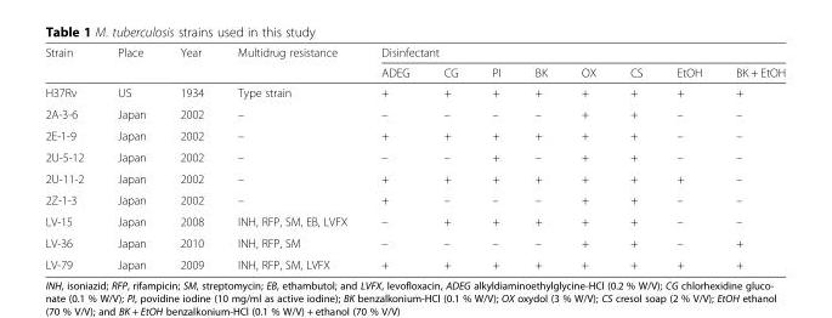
<table><thead><tr><td rowspan="2">Strain</td><td rowspan="2">Place</td><td rowspan="2">Year</td><td rowspan="2">Multidrug resistance</td><td colspan="8">Disinfectant</td></tr><tr><td>ADEG</td><td>CG</td><td>PI</td><td>BK</td><td>OX</td><td>CS</td><td>EtOH</td><td>BK + EtOH</td></tr></thead><tbody><tr><td>H37Rv</td><td>US</td><td>1934</td><td>Type strain</td><td>+</td><td>+</td><td>+</td><td>+</td><td>+</td><td>+</td><td>+</td><td>+</td></tr><tr><td>2A-3-6</td><td>Japan</td><td>2002</td><td>–</td><td>–</td><td>–</td><td>–</td><td>–</td><td>+</td><td>+</td><td>–</td><td>–</td></tr><tr><td>2E-1-9</td><td>Japan</td><td>2002</td><td>–</td><td>+</td><td>+</td><td>+</td><td>+</td><td>+</td><td>+</td><td>–</td><td>–</td></tr><tr><td>2U-5-12</td><td>Japan</td><td>2002</td><td>–</td><td>–</td><td>–</td><td>+</td><td>–</td><td>+</td><td>+</td><td>–</td><td>–</td></tr><tr><td>2U-11-2</td><td>Japan</td><td>2002</td><td>–</td><td>+</td><td>+</td><td>+</td><td>+</td><td>+</td><td>+</td><td>+</td><td>–</td></tr><tr><td>2Z-1-3</td><td>Japan</td><td>2002</td><td>–</td><td>+</td><td>–</td><td>–</td><td>–</td><td>+</td><td>+</td><td>–</td><td>–</td></tr><tr><td>LV-15</td><td>Japan</td><td>2008</td><td>INH, RFP, SM, EB, LVFX</td><td>–</td><td>+</td><td>+</td><td>+</td><td>+</td><td>+</td><td>–</td><td>–</td></tr><tr><td>LV-36</td><td>Japan</td><td>2010</td><td>INH, RFP, SM</td><td>–</td><td>–</td><td>–</td><td>–</td><td>+</td><td>+</td><td>–</td><td>+</td></tr><tr><td>LV-79</td><td>Japan</td><td>2009</td><td>INH, RFP, SM, LVFX</td><td>+</td><td>+</td><td>+</td><td>+</td><td>+</td><td>+</td><td>+</td><td>+</td></tr></tbody></table>